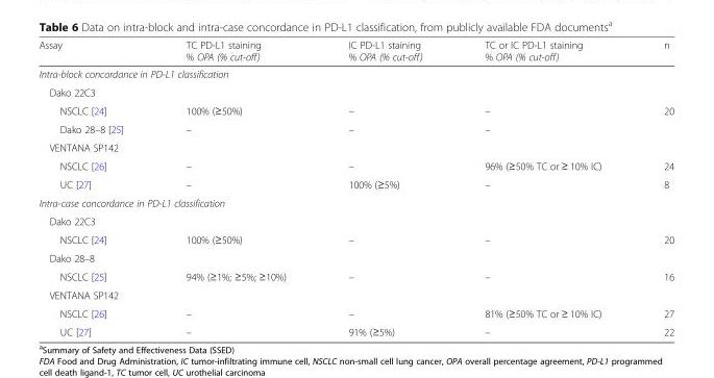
<table><thead><tr><td>Assay</td><td>TC PD-L1 staining % OPA (% cut-off)</td><td>IC PD-L1 staining % OPA (% cut-off)</td><td>TC or IC PD-L1 staining % OPA (% cut-off)</td><td>n</td></tr></thead><tbody><tr><td colspan="5">Intra-block concordance in PD-L1 classification</td></tr><tr><td colspan="5">Dako 22C3</td></tr><tr><td>NSCLC [24]</td><td>100% (≥50%)</td><td>–</td><td>–</td><td>20</td></tr><tr><td>Dako 28–8 [25]</td><td>–</td><td>–</td><td>–</td><td></td></tr><tr><td colspan="5">VENTANA SP142</td></tr><tr><td>NSCLC [26]</td><td>–</td><td>–</td><td>96% (≥50% TC or ≥ 10% IC)</td><td>24</td></tr><tr><td>UC [27]</td><td>–</td><td>100% (≥5%)</td><td>–</td><td>8</td></tr><tr><td colspan="5">Intra-case concordance in PD-L1 classification</td></tr><tr><td colspan="5">Dako 22C3</td></tr><tr><td>NSCLC [24]</td><td>100% (≥50%)</td><td>–</td><td>–</td><td>20</td></tr><tr><td colspan="5">Dako 28–8</td></tr><tr><td>NSCLC [25]</td><td>94% (≥1%; ≥5%; ≥10%)</td><td>–</td><td>–</td><td>16</td></tr><tr><td colspan="5">VENTANA SP142</td></tr><tr><td>NSCLC [26]</td><td>–</td><td>–</td><td>81% (≥50% TC or ≥ 10% IC)</td><td>27</td></tr><tr><td>UC [27]</td><td>–</td><td>91% (≥5%)</td><td>–</td><td>22</td></tr></tbody></table>